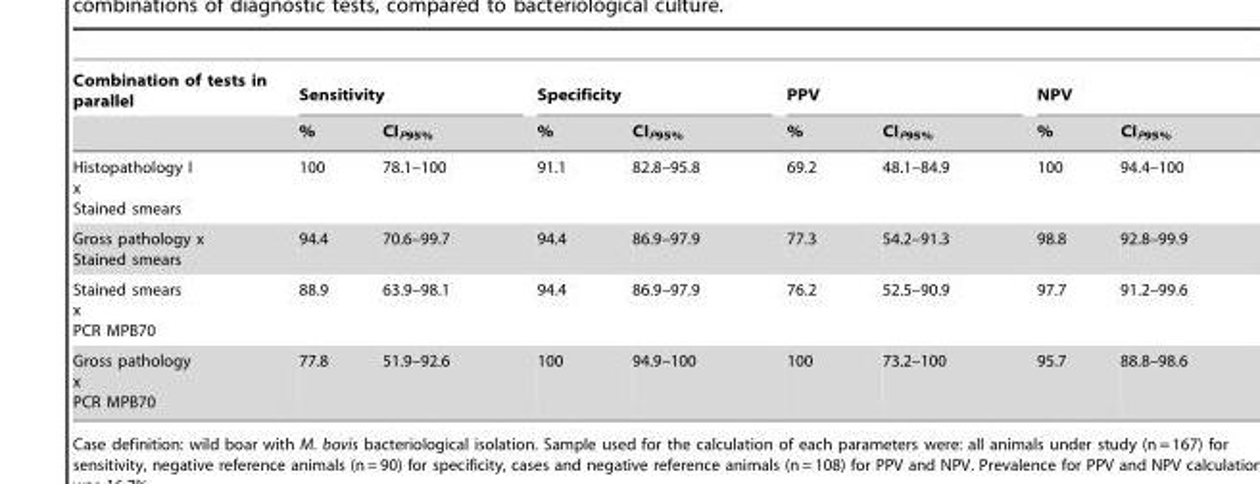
<table><thead><tr><td rowspan="2">Combination of tests in parallel</td><td colspan="2">Sensitivity</td><td colspan="2">Specificity</td><td colspan="2">PPV</td><td colspan="2">NPV</td></tr><tr><td>%</td><td>CI<sub>P95%</sub></td><td>%</td><td>CI<sub>P95%</sub></td><td>%</td><td>CI<sub>P95%</sub></td><td>%</td><td>CI<sub>P95%</sub></td></tr></thead><tbody><tr><td>Histopathology I x Stained smears</td><td>100</td><td>78.1–100</td><td>91.1</td><td>82.8–95.8</td><td>69.2</td><td>48.1–84.9</td><td>100</td><td>94.4–100</td></tr><tr><td>Gross pathology x Stained smears</td><td>94.4</td><td>70.6–99.7</td><td>94.4</td><td>86.9–97.9</td><td>77.3</td><td>54.2–91.3</td><td>98.8</td><td>92.8–99.9</td></tr><tr><td>Stained smears x PCR MPB70</td><td>88.9</td><td>63.9–98.1</td><td>94.4</td><td>86.9–97.9</td><td>76.2</td><td>52.5–90.9</td><td>97.7</td><td>91.2–99.6</td></tr><tr><td>Gross pathology x PCR MPB70</td><td>77.8</td><td>51.9–92.6</td><td>100</td><td>94.9–100</td><td>100</td><td>73.2–100</td><td>95.7</td><td>88.8–98.6</td></tr></tbody></table>